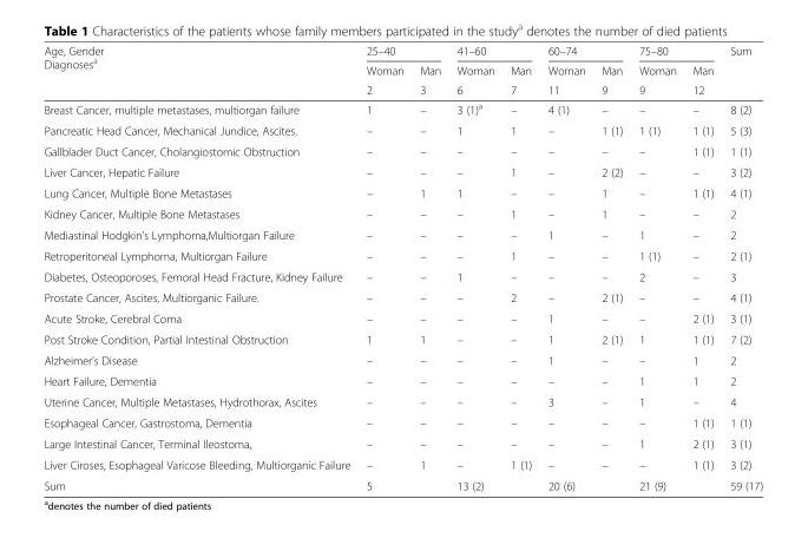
<table><thead><tr><td rowspan="3">Age, Gender Diagnoses<sup>a</sup></td><td colspan="2">25–40</td><td colspan="2">41–60</td><td colspan="2">60–74</td><td colspan="2">75–80</td><td rowspan="3">Sum</td></tr><tr><td rowspan="2">Woman 2</td><td rowspan="2">Man 3</td><td rowspan="2">Woman 6</td><td rowspan="2">Man 7</td><td rowspan="2">Woman 11</td><td rowspan="2">Man 9</td><td rowspan="2">Woman 9</td><td rowspan="2">Man 12</td></tr><tr></tr></thead><tbody><tr><td>Breast Cancer, multiple metastases, multiorgan failure</td><td>1</td><td>–</td><td>3 (1)<sup>a</sup></td><td>–</td><td>4 (1)</td><td>–</td><td>–</td><td>–</td><td>8 (2)</td></tr><tr><td>Pancreatic Head Cancer, Mechanical Jundice, Ascites.</td><td>–</td><td>–</td><td>1</td><td>1</td><td>–</td><td>1 (1)</td><td>1 (1)</td><td>1 (1)</td><td>5 (3)</td></tr><tr><td>Gallblader Duct Cancer, Cholangiostomic Obstruction</td><td>–</td><td>–</td><td>–</td><td>–</td><td>–</td><td>–</td><td>–</td><td>1 (1)</td><td>1 (1)</td></tr><tr><td>Liver Cancer, Hepatic Failure</td><td>–</td><td>–</td><td>–</td><td>1</td><td>–</td><td>2 (2)</td><td>–</td><td>–</td><td>3 (2)</td></tr><tr><td>Lung Cancer, Multiple Bone Metastases</td><td>–</td><td>1</td><td>1</td><td>–</td><td>–</td><td>1</td><td>–</td><td>1 (1)</td><td>4 (1)</td></tr><tr><td>Kidney Cancer, Multiple Bone Metastases</td><td>–</td><td>–</td><td>–</td><td>1</td><td>–</td><td>1</td><td>–</td><td>–</td><td>2</td></tr><tr><td>Mediastinal Hodgkin’s Lymphoma,Multiorgan Failure</td><td>–</td><td>–</td><td>–</td><td>–</td><td>1</td><td>–</td><td>1</td><td>–</td><td>2</td></tr><tr><td>Retroperitoneal Lymphoma, Multiorgan Failure</td><td>–</td><td>–</td><td>–</td><td>1</td><td>–</td><td>–</td><td>1 (1)</td><td>–</td><td>2 (1)</td></tr><tr><td>Diabetes, Osteoporoses, Femoral Head Fracture, Kidney Failure</td><td>–</td><td>–</td><td>1</td><td>–</td><td>–</td><td>–</td><td>2</td><td>–</td><td>3</td></tr><tr><td>Prostate Cancer, Ascites, Multiorganic Failure.</td><td>–</td><td>–</td><td>–</td><td>2</td><td>–</td><td>2 (1)</td><td>–</td><td>–</td><td>4 (1)</td></tr><tr><td>Acute Stroke, Cerebral Coma</td><td>–</td><td>–</td><td>–</td><td>–</td><td>1</td><td>–</td><td>–</td><td>2 (1)</td><td>3 (1)</td></tr><tr><td>Post Stroke Condition, Partial Intestinal Obstruction</td><td>1</td><td>1</td><td>–</td><td>–</td><td>1</td><td>2 (1)</td><td>1</td><td>1 (1)</td><td>7 (2)</td></tr><tr><td>Alzheimer’s Disease</td><td>–</td><td>–</td><td>–</td><td>–</td><td>1</td><td>–</td><td>–</td><td>1</td><td>2</td></tr><tr><td>Heart Failure, Dementia</td><td>–</td><td>–</td><td>–</td><td>–</td><td>–</td><td>–</td><td>1</td><td>1</td><td>2</td></tr><tr><td>Uterine Cancer, Multiple Metastases, Hydrothorax, Ascites</td><td>–</td><td>–</td><td>–</td><td>–</td><td>3</td><td>–</td><td>1</td><td>–</td><td>4</td></tr><tr><td>Esophageal Cancer, Gastrostoma, Dementia</td><td>–</td><td>–</td><td>–</td><td>–</td><td>–</td><td>–</td><td>–</td><td>1 (1)</td><td>1 (1)</td></tr><tr><td>Large Intestinal Cancer, Terminal Ileostoma,</td><td>–</td><td>–</td><td>–</td><td>–</td><td>–</td><td>–</td><td>1</td><td>2 (1)</td><td>3 (1)</td></tr><tr><td>Liver Ciroses, Esophageal Varicose Bleeding, Multiorganic Failure</td><td>–</td><td>1</td><td>–</td><td>1 (1)</td><td>–</td><td>–</td><td>–</td><td>1 (1)</td><td>3 (2)</td></tr><tr><td>Sum</td><td colspan="2">5</td><td colspan="2">13 (2)</td><td colspan="2">20 (6)</td><td colspan="2">21 (9)</td><td>59 (17)</td></tr></tbody></table>